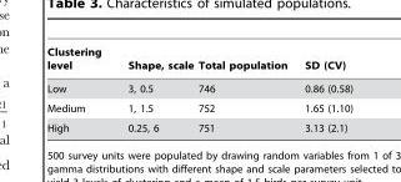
<table><thead><tr><td>Clustering level</td><td>Shape, scale</td><td>Total population</td><td>SD (CV)</td></tr></thead><tbody><tr><td>Low</td><td>3, 0.5</td><td>746</td><td>0.86 (0.58)</td></tr><tr><td>Medium</td><td>1, 1.5</td><td>752</td><td>1.65 (1.10)</td></tr><tr><td>High</td><td>0.25, 6</td><td>751</td><td>3.13 (2.1)</td></tr></tbody></table>